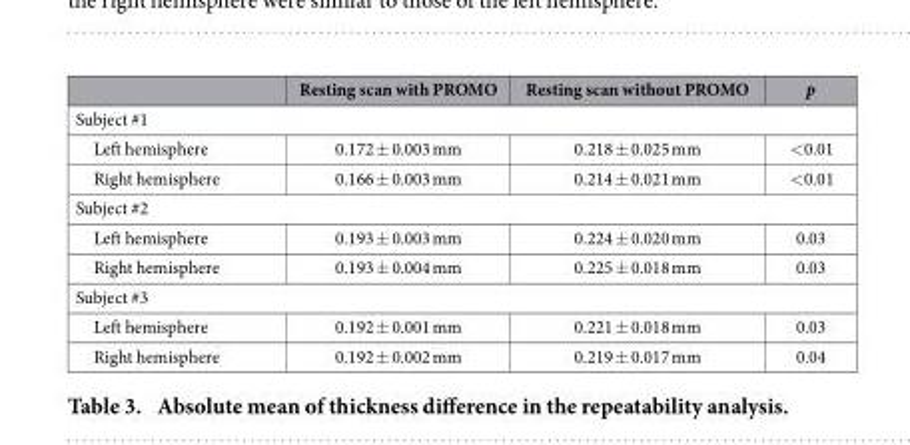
<table><thead><tr><td></td><td>Resting scan with PROMO</td><td>Resting scan without PROMO</td><td>p</td></tr></thead><tbody><tr><td colspan="4">Subject #1</td></tr><tr><td>Left hemisphere</td><td>0.172 ± 0.003 mm</td><td>0.218 ± 0.025 mm</td><td>&lt;0.01</td></tr><tr><td>Right hemisphere</td><td>0.166 ± 0.003 mm</td><td>0.214 ± 0.021 mm</td><td>&lt;0.01</td></tr><tr><td colspan="4">Subject #2</td></tr><tr><td>Left hemisphere</td><td>0.193 ± 0.003 mm</td><td>0.224 ± 0.020 mm</td><td>0.03</td></tr><tr><td>Right hemisphere</td><td>0.193 ± 0.004 mm</td><td>0.225 ± 0.018 mm</td><td>0.03</td></tr><tr><td colspan="4">Subject #3</td></tr><tr><td>Left hemisphere</td><td>0.192 ± 0.001 mm</td><td>0.221 ± 0.018 mm</td><td>0.03</td></tr><tr><td>Right hemisphere</td><td>0.192 ± 0.002 mm</td><td>0.219 ± 0.017 mm</td><td>0.04</td></tr></tbody></table>